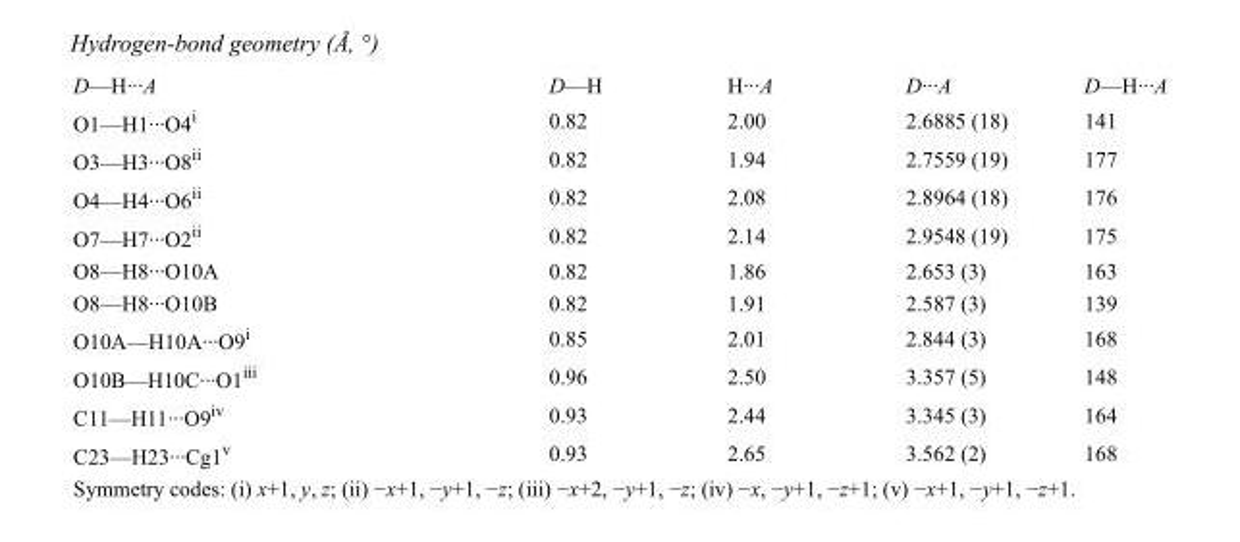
<table><tbody><tr><td>D—H···A</td><td>D—H</td><td>H···A</td><td>D···A</td><td>D—H···A</td></tr><tr><td>O1—H1···O4<sup>i</sup></td><td>0.82</td><td>2.00</td><td>2.6885 (18)</td><td>141</td></tr><tr><td>O3—H3···O8<sup>ii</sup></td><td>0.82</td><td>1.94</td><td>2.7559 (19)</td><td>177</td></tr><tr><td>O4—H4···O6<sup>ii</sup></td><td>0.82</td><td>2.08</td><td>2.8964 (18)</td><td>176</td></tr><tr><td>O7—H7···O2<sup>ii</sup></td><td>0.82</td><td>2.14</td><td>2.9548 (19)</td><td>175</td></tr><tr><td>O8—H8···O10A</td><td>0.82</td><td>1.86</td><td>2.653 (3)</td><td>163</td></tr><tr><td>O8—H8···O10B</td><td>0.82</td><td>1.91</td><td>2.587 (3)</td><td>139</td></tr><tr><td>O10A—H10A···O9<sup>i</sup></td><td>0.85</td><td>2.01</td><td>2.844 (3)</td><td>168</td></tr><tr><td>O10B—H10C···O1<sup>iii</sup></td><td>0.96</td><td>2.50</td><td>3.357 (5)</td><td>148</td></tr><tr><td>C11—H11···O9<sup>iv</sup></td><td>0.93</td><td>2.44</td><td>3.345 (3)</td><td>164</td></tr><tr><td>C23—H23···Cg1<sup>v</sup></td><td>0.93</td><td>2.65</td><td>3.562 (2)</td><td>168</td></tr></tbody></table>